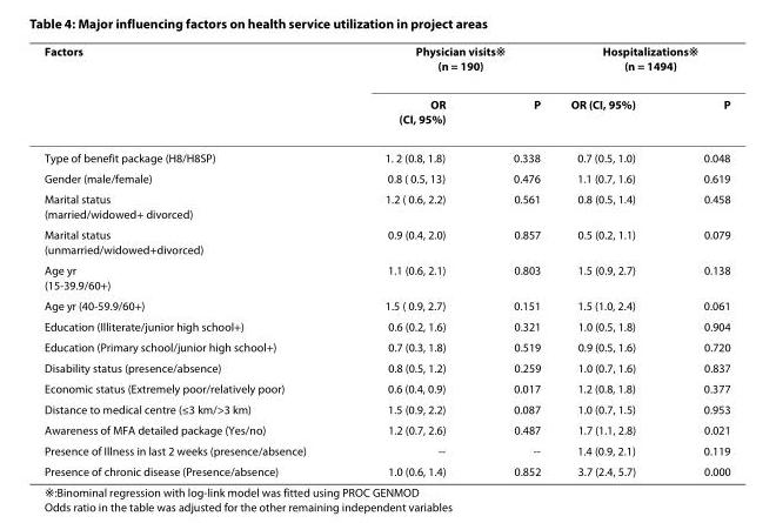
<table><thead><tr><td rowspan="2">Factors</td><td colspan="2">Physician visits※ (n = 190)</td><td colspan="2">Hospitalizations※ (n = 1494)</td></tr><tr><td>OR (CI, 95%)</td><td>P</td><td>OR (CI, 95%)</td><td>P</td></tr></thead><tbody><tr><td>Type of benefit package (H8/H8SP)</td><td>1. 2 (0.8, 1.8)</td><td>0.338</td><td>0.7 (0.5, 1.0)</td><td>0.048</td></tr><tr><td>Gender (male/female)</td><td>0.8 ( 0.5, 13)</td><td>0.476</td><td>1.1 (0.7, 1.6)</td><td>0.619</td></tr><tr><td>Marital status (married/widowed+ divorced)</td><td>1.2 ( 0.6, 2.2)</td><td>0.561</td><td>0.8 (0.5, 1.4)</td><td>0.458</td></tr><tr><td>Marital status (unmarried/widowed+divorced)</td><td>0.9 (0.4, 2.0)</td><td>0.857</td><td>0.5 (0.2, 1.1)</td><td>0.079</td></tr><tr><td>Age yr (15-39.9/60+)</td><td>1.1 (0.6, 2.1)</td><td>0.803</td><td>1.5 (0.9, 2.7)</td><td>0.138</td></tr><tr><td>Age yr (40-59.9/60+)</td><td>1.5 ( 0.9, 2.7)</td><td>0.151</td><td>1.5 (1.0, 2.4)</td><td>0.061</td></tr><tr><td>Education (Illiterate/junior high school+)</td><td>0.6 (0.2, 1.6)</td><td>0.321</td><td>1.0 (0.5, 1.8)</td><td>0.904</td></tr><tr><td>Education (Primary school/junior high school+)</td><td>0.7 (0.3, 1.8)</td><td>0.519</td><td>0.9 (0.5, 1.6)</td><td>0.720</td></tr><tr><td>Disability status (presence/absence)</td><td>0.8 (0.5, 1.2)</td><td>0.259</td><td>1.0 (0.7, 1.6)</td><td>0.837</td></tr><tr><td>Economic status (Extremely poor/relatively poor)</td><td>0.6 (0.4, 0.9)</td><td>0.017</td><td>1.2 (0.8, 1.8)</td><td>0.377</td></tr><tr><td>Distance to medical centre (≤3 km/&gt;3 km)</td><td>1.5 (0.9, 2.2)</td><td>0.087</td><td>1.0 (0.7, 1.5)</td><td>0.953</td></tr><tr><td>Awareness of MFA detailed package (Yes/no)</td><td>1.2 (0.7, 2.6)</td><td>0.487</td><td>1.7 (1.1, 2.8)</td><td>0.021</td></tr><tr><td>Presence of Illness in last 2 weeks (presence/absence)</td><td>--</td><td>--</td><td>1.4 (0.9, 2.1)</td><td>0.119</td></tr><tr><td>Presence of chronic disease (Presence/absence)</td><td>1.0 (0.6, 1.4)</td><td>0.852</td><td>3.7 (2.4, 5.7)</td><td>0.000</td></tr></tbody></table>